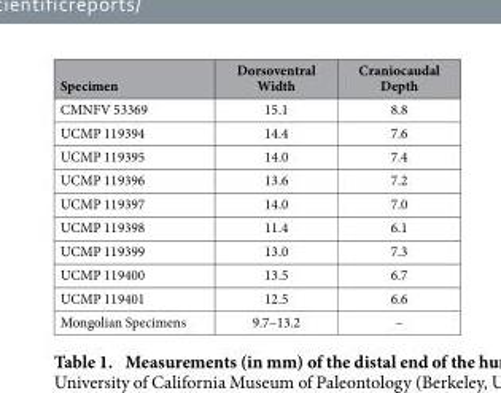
<table><thead><tr><td>Specimen</td><td>Dorsoventral Width</td><td>Craniocaudal Depth</td></tr></thead><tbody><tr><td>CMNFV 53369</td><td>15.1</td><td>8.8</td></tr><tr><td>UCMP 119394</td><td>14.4</td><td>7.6</td></tr><tr><td>UCMP 119395</td><td>14.0</td><td>7.4</td></tr><tr><td>UCMP 119396</td><td>13.6</td><td>7.2</td></tr><tr><td>UCMP 119397</td><td>14.0</td><td>7.0</td></tr><tr><td>UCMP 119398</td><td>11.4</td><td>6.1</td></tr><tr><td>UCMP 119399</td><td>13.0</td><td>7.3</td></tr><tr><td>UCMP 119400</td><td>13.5</td><td>6.7</td></tr><tr><td>UCMP 119401</td><td>12.5</td><td>6.6</td></tr><tr><td>Mongolian Specimens</td><td>9.7–13.2</td><td>–</td></tr></tbody></table>